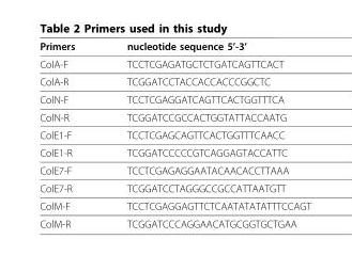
<table><thead><tr><td>Primers</td><td>nucleotide sequence 5’-3’</td></tr></thead><tbody><tr><td>ColA-F</td><td>TCCTCGAGATGCTCTGATCAGTTCACT</td></tr><tr><td>ColA-R</td><td>TCGGATCCTACCACCACCCGGCTC</td></tr><tr><td>ColN-F</td><td>TCCTCGAGGATCAGTTCACTGGTTTCA</td></tr><tr><td>ColN-R</td><td>TCGGATCCGCCACTGGTATTACCAATG</td></tr><tr><td>ColE1-F</td><td>TCCTCGAGCAGTTCACTGGTTTCAACC</td></tr><tr><td>ColE1-R</td><td>TCGGATCCCCCGTCAGGAGTACCATTC</td></tr><tr><td>ColE7-F</td><td>TCCTCGAGAGGAATACAACACCTTAAA</td></tr><tr><td>ColE7-R</td><td>TCGGATCCTAGGGCCGCCATTAATGTT</td></tr><tr><td>ColM-F</td><td>TCCTCGAGGAGTTCTCAATATATATTTCCAGT</td></tr><tr><td>ColM-R</td><td>TCGGATCCCAGGAACATGCGGTGCTGAA</td></tr></tbody></table>